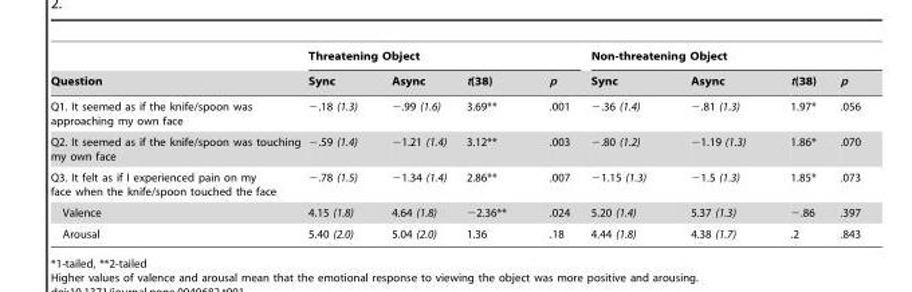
<table><thead><tr><td rowspan="2">Question</td><td colspan="4">Threatening Object</td><td colspan="4">Non-threatening Object</td></tr><tr><td>Sync</td><td>Async</td><td>t(38)</td><td>p</td><td>Sync</td><td>Async</td><td>t(38)</td><td>p</td></tr></thead><tbody><tr><td>Q1. It seemed as if the knife/spoon was approaching my own face</td><td>−.18 (1.3)</td><td>−.99 (1.6)</td><td>3.69**</td><td>.001</td><td>−.36 (1.4)</td><td>−.81 (1.3)</td><td>1.97*</td><td>.056</td></tr><tr><td>Q2. It seemed as if the knife/spoon was touching my own face</td><td>−.59 (1.4)</td><td>−1.21 (1.4)</td><td>3.12**</td><td>.003</td><td>−.80 (1.2)</td><td>−1.19 (1.3)</td><td>1.86*</td><td>.070</td></tr><tr><td>Q3. It felt as if I experienced pain on my face when the knife/spoon touched the face</td><td>−.78 (1.5)</td><td>−1.34 (1.4)</td><td>2.86**</td><td>.007</td><td>−1.15 (1.3)</td><td>−1.5 (1.3)</td><td>1.85*</td><td>.073</td></tr><tr><td>Valence</td><td>4.15 (1.8)</td><td>4.64 (1.8)</td><td>−2.36**</td><td>.024</td><td>5.20 (1.4)</td><td>5.37 (1.3)</td><td>−.86</td><td>.397</td></tr><tr><td>Arousal</td><td>5.40 (2.0)</td><td>5.04 (2.0)</td><td>1.36</td><td>.18</td><td>4.44 (1.8)</td><td>4.38 (1.7)</td><td>.2</td><td>.843</td></tr></tbody></table>